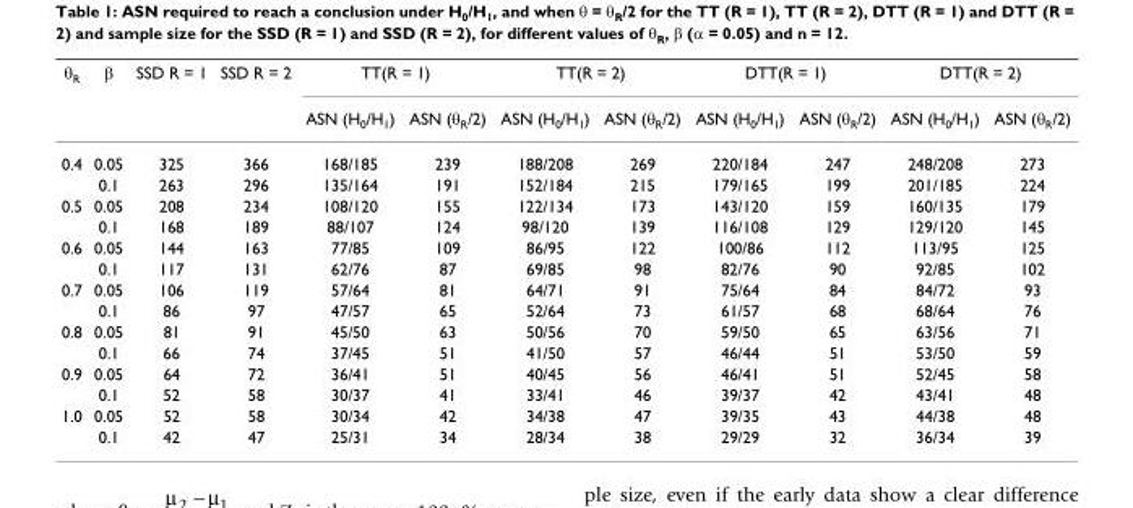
<table><thead><tr><td rowspan="2">θ<sub>R</sub></td><td rowspan="2">β</td><td rowspan="2">SSD R = 1</td><td rowspan="2">SSD R = 2</td><td colspan="2">TT(R = 1)</td><td colspan="2">TT(R = 2)</td><td colspan="2">DTT(R = 1)</td><td colspan="2">DTT(R = 2)</td></tr><tr><td>ASN (H<sub>0</sub>/H<sub>1</sub>)</td><td>ASN (θ<sub>R</sub>/2)</td><td>ASN (H<sub>0</sub>/H<sub>1</sub>)</td><td>ASN (θ<sub>R</sub>/2)</td><td>ASN (H<sub>0</sub>/H<sub>1</sub>)</td><td>ASN (θ<sub>R</sub>/2)</td><td>ASN (H<sub>0</sub>/H<sub>1</sub>)</td><td>ASN (θ<sub>R</sub>/2)</td></tr></thead><tbody><tr><td rowspan="2">0.4</td><td>0.05</td><td>325</td><td>366</td><td>168/185</td><td>239</td><td>188/208</td><td>269</td><td>220/184</td><td>247</td><td>248/208</td><td>273</td></tr><tr><td>0.1</td><td>263</td><td>296</td><td>135/164</td><td>191</td><td>152/184</td><td>215</td><td>179/165</td><td>199</td><td>201/185</td><td>224</td></tr><tr><td rowspan="2">0.5</td><td>0.05</td><td>208</td><td>234</td><td>108/120</td><td>155</td><td>122/134</td><td>173</td><td>143/120</td><td>159</td><td>160/135</td><td>179</td></tr><tr><td>0.1</td><td>168</td><td>189</td><td>88/107</td><td>124</td><td>98/120</td><td>139</td><td>116/108</td><td>129</td><td>129/120</td><td>145</td></tr><tr><td rowspan="2">0.6</td><td>0.05</td><td>144</td><td>163</td><td>77/85</td><td>109</td><td>86/95</td><td>122</td><td>100/86</td><td>112</td><td>113/95</td><td>125</td></tr><tr><td>0.1</td><td>117</td><td>131</td><td>62/76</td><td>87</td><td>69/85</td><td>98</td><td>82/76</td><td>90</td><td>92/85</td><td>102</td></tr><tr><td rowspan="2">0.7</td><td>0.05</td><td>106</td><td>119</td><td>57/64</td><td>81</td><td>64/71</td><td>91</td><td>75/64</td><td>84</td><td>84/72</td><td>93</td></tr><tr><td>0.1</td><td>86</td><td>97</td><td>47/57</td><td>65</td><td>52/64</td><td>73</td><td>61/57</td><td>68</td><td>68/64</td><td>76</td></tr><tr><td rowspan="2">0.8</td><td>0.05</td><td>81</td><td>91</td><td>45/50</td><td>63</td><td>50/56</td><td>70</td><td>59/50</td><td>65</td><td>63/56</td><td>71</td></tr><tr><td>0.1</td><td>66</td><td>74</td><td>37/45</td><td>51</td><td>41/50</td><td>57</td><td>46/44</td><td>51</td><td>53/50</td><td>59</td></tr><tr><td rowspan="2">0.9</td><td>0.05</td><td>64</td><td>72</td><td>36/41</td><td>51</td><td>40/45</td><td>56</td><td>46/41</td><td>51</td><td>52/45</td><td>58</td></tr><tr><td>0.1</td><td>52</td><td>58</td><td>30/37</td><td>41</td><td>33/41</td><td>46</td><td>39/37</td><td>42</td><td>43/41</td><td>48</td></tr><tr><td rowspan="2">1.0</td><td>0.05</td><td>52</td><td>58</td><td>30/34</td><td>42</td><td>34/38</td><td>47</td><td>39/35</td><td>43</td><td>44/38</td><td>48</td></tr><tr><td>0.1</td><td>42</td><td>47</td><td>25/31</td><td>34</td><td>28/34</td><td>38</td><td>29/29</td><td>32</td><td>36/34</td><td>39</td></tr></tbody></table>